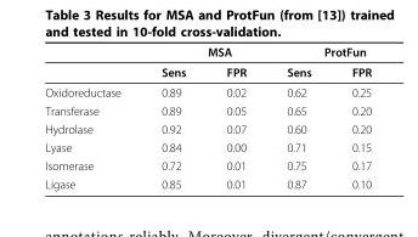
<table><thead><tr><td rowspan="2"></td><td colspan="2">MSA</td><td colspan="2">ProtFun</td></tr><tr><td>Sens</td><td>FPR</td><td>Sens</td><td>FPR</td></tr></thead><tbody><tr><td>Oxidoreductase</td><td>0.89</td><td>0.02</td><td>0.62</td><td>0.25</td></tr><tr><td>Transferase</td><td>0.89</td><td>0.05</td><td>0.65</td><td>0.20</td></tr><tr><td>Hydrolase</td><td>0.92</td><td>0.07</td><td>0.60</td><td>0.20</td></tr><tr><td>Lyase</td><td>0.84</td><td>0.00</td><td>0.71</td><td>0.15</td></tr><tr><td>Isomerase</td><td>0.72</td><td>0.01</td><td>0.75</td><td>0.17</td></tr><tr><td>Ligase</td><td>0.85</td><td>0.01</td><td>0.87</td><td>0.10</td></tr></tbody></table>